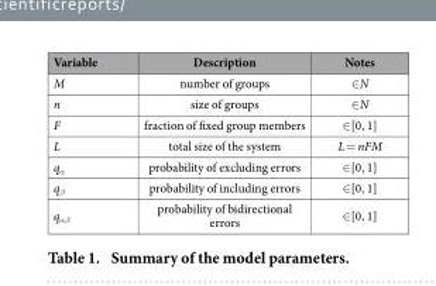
<table><thead><tr><td>Variable</td><td>Description</td><td>Notes</td></tr></thead><tbody><tr><td>M</td><td>number of groups</td><td>∈ N</td></tr><tr><td>n</td><td>size of groups</td><td>∈ N</td></tr><tr><td>F</td><td>fraction of fixed group members</td><td>∈ [0, 1]</td></tr><tr><td>L</td><td>total size of the system</td><td>L = nFM</td></tr><tr><td>q<sub>α</sub></td><td>probability of excluding errors</td><td>∈ [0, 1]</td></tr><tr><td>q<sub>β</sub></td><td>probability of including errors</td><td>∈ [0, 1]</td></tr><tr><td>q<sub>αβ</sub></td><td>probability of bidirectional errors</td><td>∈ [0, 1]</td></tr></tbody></table>